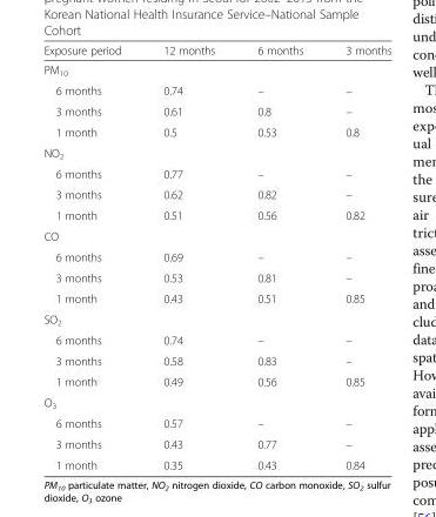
<table><thead><tr><td>Exposure period</td><td>12 months</td><td>6 months</td><td>3 months</td></tr></thead><tbody><tr><td colspan="4">PM<sub>10</sub></td></tr><tr><td>6 months</td><td>0.74</td><td>–</td><td>–</td></tr><tr><td>3 months</td><td>0.61</td><td>0.8</td><td>–</td></tr><tr><td>1 month</td><td>0.5</td><td>0.53</td><td>0.8</td></tr><tr><td colspan="4">NO<sub>2</sub></td></tr><tr><td>6 months</td><td>0.77</td><td>–</td><td>–</td></tr><tr><td>3 months</td><td>0.62</td><td>0.82</td><td>–</td></tr><tr><td>1 month</td><td>0.51</td><td>0.56</td><td>0.82</td></tr><tr><td colspan="4">CO</td></tr><tr><td>6 months</td><td>0.69</td><td>–</td><td>–</td></tr><tr><td>3 months</td><td>0.53</td><td>0.81</td><td>–</td></tr><tr><td>1 month</td><td>0.43</td><td>0.51</td><td>0.85</td></tr><tr><td colspan="4">SO<sub>2</sub></td></tr><tr><td>6 months</td><td>0.74</td><td>–</td><td>–</td></tr><tr><td>3 months</td><td>0.58</td><td>0.83</td><td>–</td></tr><tr><td>1 month</td><td>0.49</td><td>0.56</td><td>0.85</td></tr><tr><td colspan="4">O<sub>3</sub></td></tr><tr><td>6 months</td><td>0.57</td><td>–</td><td>–</td></tr><tr><td>3 months</td><td>0.43</td><td>0.77</td><td>–</td></tr><tr><td>1 month</td><td>0.35</td><td>0.43</td><td>0.84</td></tr></tbody></table>